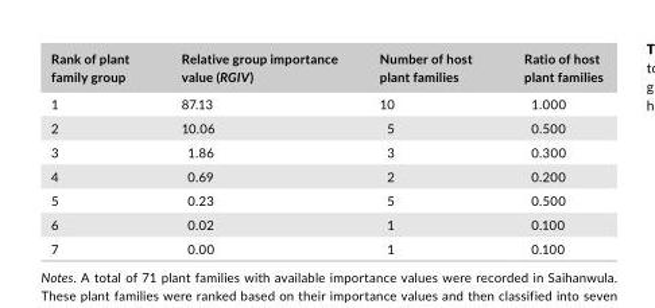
<table><thead><tr><td>Rank of plant family group</td><td>Relative group importance value (RGIV)</td><td>Number of host plant families</td><td>Ratio of host plant families</td></tr></thead><tbody><tr><td>1</td><td>87.13</td><td>10</td><td>1.000</td></tr><tr><td>2</td><td>10.06</td><td>5</td><td>0.500</td></tr><tr><td>3</td><td>1.86</td><td>3</td><td>0.300</td></tr><tr><td>4</td><td>0.69</td><td>2</td><td>0.200</td></tr><tr><td>5</td><td>0.23</td><td>5</td><td>0.500</td></tr><tr><td>6</td><td>0.02</td><td>1</td><td>0.100</td></tr><tr><td>7</td><td>0.00</td><td>1</td><td>0.100</td></tr></tbody></table>